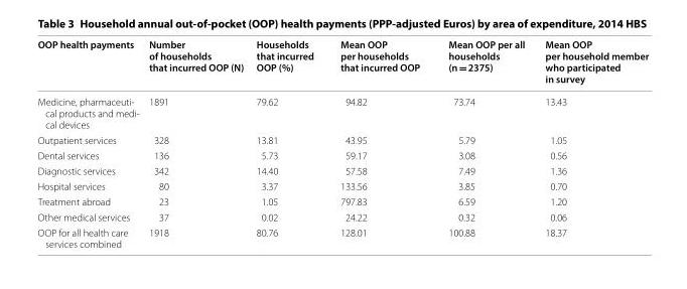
<table><thead><tr><td>OOP health payments</td><td>Number of households that incurred OOP (N)</td><td>Households that incurred OOP (%)</td><td>Mean OOP per households that incurred OOP</td><td>Mean OOP per all households (n = 2375)</td><td>Mean OOP per household member who participated in survey</td></tr></thead><tbody><tr><td>Medicine, pharmaceuti- cal products and medi- cal devices</td><td>1891</td><td>79.62</td><td>94.82</td><td>73.74</td><td>13.43</td></tr><tr><td>Outpatient services</td><td>328</td><td>13.81</td><td>43.95</td><td>5.79</td><td>1.05</td></tr><tr><td>Dental services</td><td>136</td><td>5.73</td><td>59.17</td><td>3.08</td><td>0.56</td></tr><tr><td>Diagnostic services</td><td>342</td><td>14.40</td><td>57.58</td><td>7.49</td><td>1.36</td></tr><tr><td>Hospital services</td><td>80</td><td>3.37</td><td>133.56</td><td>3.85</td><td>0.70</td></tr><tr><td>Treatment abroad</td><td>23</td><td>1.05</td><td>797.83</td><td>6.59</td><td>1.20</td></tr><tr><td>Other medical services</td><td>37</td><td>0.02</td><td>24.22</td><td>0.32</td><td>0.06</td></tr><tr><td>OOP for all health care services combined</td><td>1918</td><td>80.76</td><td>128.01</td><td>100.88</td><td>18.37</td></tr></tbody></table>